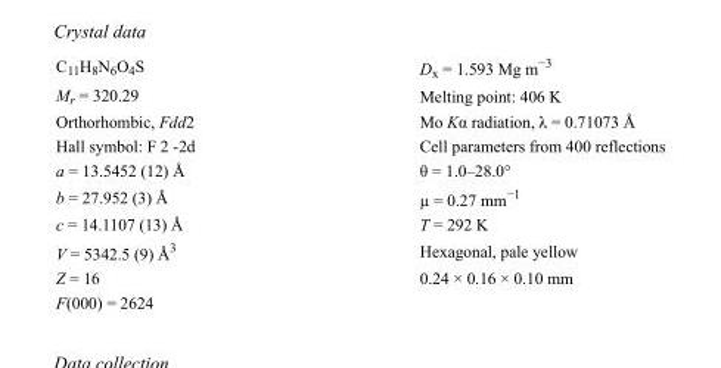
<table><tbody><tr><td>C<sub>11</sub>H<sub>8</sub>N<sub>6</sub>O<sub>4</sub>S</td><td>D<sub>x</sub> = 1.593 Mg m<sup>−3</sup></td></tr><tr><td>M<sub>r</sub> = 320.29</td><td>Melting point: 406 K</td></tr><tr><td>Orthorhombic, Fdd2</td><td>Mo Kα radiation, λ = 0.71073 Å</td></tr><tr><td>Hall symbol: F 2 -2d</td><td>Cell parameters from 400 reflections</td></tr><tr><td>a = 13.5452 (12) Å</td><td>θ = 1.0–28.0°</td></tr><tr><td>b = 27.952 (3) Å</td><td>µ = 0.27 mm<sup>−1</sup></td></tr><tr><td>c = 14.1107 (13) Å</td><td>T = 292 K</td></tr><tr><td>V = 5342.5 (9) Å<sup>3</sup></td><td>Hexagonal, pale yellow</td></tr><tr><td>Z = 16</td><td>0.24 × 0.16 × 0.10 mm</td></tr><tr><td>F(000) = 2624</td><td></td></tr></tbody></table>